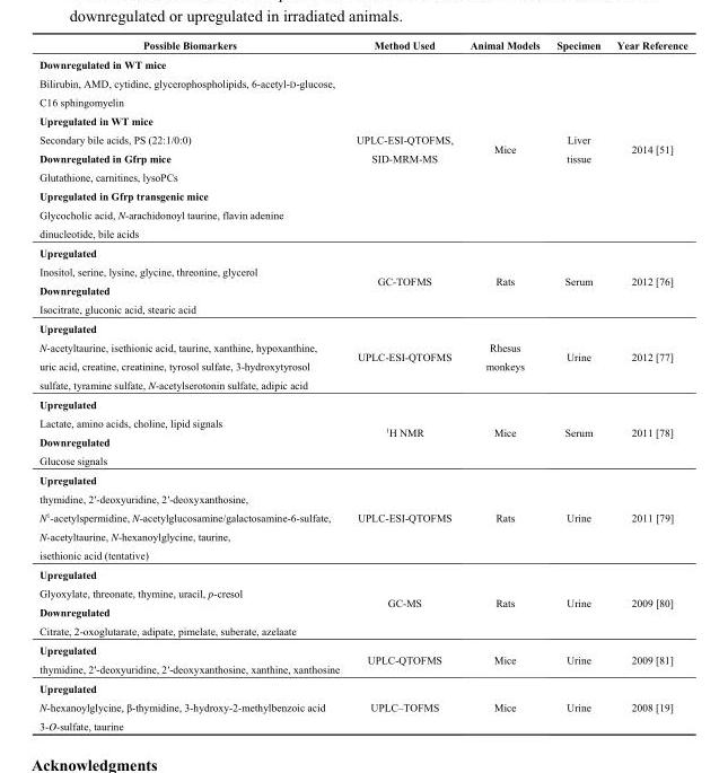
<table><thead><tr><td>Possible Biomarkers</td><td>Method Used</td><td>Animal Models</td><td>Specimen</td><td>Year Reference</td></tr></thead><tbody><tr><td>Downregulated in WT mice</td><td rowspan="8">UPLC-ESI-QTOFMS, SID-MRM-MS</td><td rowspan="8">Mice</td><td rowspan="8">Liver tissue</td><td rowspan="8">2014 [51]</td></tr><tr><td>Bilirubin, AMD, cytidine, glycerophospholipids, 6-acetyl-D-glucose, C16 sphingomyelin</td></tr><tr><td>Upregulated in WT mice</td></tr><tr><td>Secondary bile acids, PS (22:1/0:0)</td></tr><tr><td>Downregulated in Gfrp mice</td></tr><tr><td>Glutathione, carnitines, lysoPCs</td></tr><tr><td>Upregulated in Gfrp transgenic mice</td></tr><tr><td>Glycocholic acid, N-arachidonoyl taurine, flavin adenine dinucleotide, bile acids</td></tr><tr><td>Upregulated</td><td rowspan="4">GC-TOFMS</td><td rowspan="4">Rats</td><td rowspan="4">Serum</td><td rowspan="4">2012 [76]</td></tr><tr><td>Inositol, serine, lysine, glycine, threonine, glycerol</td></tr><tr><td>Downregulated</td></tr><tr><td>Isocitrate, gluconic acid, stearic acid</td></tr><tr><td>Upregulated</td><td rowspan="2">UPLC-ESI-QTOFMS</td><td rowspan="2">Rhesus monkeys</td><td rowspan="2">Urine</td><td rowspan="2">2012 [77]</td></tr><tr><td>N-acetyltaurine, isethionic acid, taurine, xanthine, hypoxanthine, uric acid, creatine, creatinine, tyrosol sulfate, 3-hydroxytyrosol sulfate, tyramine sulfate, N-acetylserotonin sulfate, adipic acid</td></tr><tr><td>Upregulated</td><td rowspan="4"><sup>1</sup>H NMR</td><td rowspan="4">Mice</td><td rowspan="4">Serum</td><td rowspan="4">2011 [78]</td></tr><tr><td>Lactate, amino acids, choline, lipid signals</td></tr><tr><td>Downregulated</td></tr><tr><td>Glucose signals</td></tr><tr><td>Upregulated</td><td rowspan="2">UPLC-ESI-QTOFMS</td><td rowspan="2">Rats</td><td rowspan="2">Urine</td><td rowspan="2">2011 [79]</td></tr><tr><td>thymidine, 2′-deoxyuridine, 2′-deoxyxanthosine, N<sup>1</sup>-acetylspermidine, N-acetylglucosamine/galactosamine-6-sulfate, N-acetyltaurine, N-hexanoylglycine, taurine, isethionic acid (tentative)</td></tr><tr><td>Upregulated</td><td rowspan="4">GC-MS</td><td rowspan="4">Rats</td><td rowspan="4">Urine</td><td rowspan="4">2009 [80]</td></tr><tr><td>Glyoxylate, threonate, thymine, uracil, p-cresol</td></tr><tr><td>Downregulated</td></tr><tr><td>Citrate, 2-oxoglutarate, adipate, pimelate, suberate, azelaate</td></tr><tr><td>Upregulated</td><td rowspan="2">UPLC-QTOFMS</td><td rowspan="2">Mice</td><td rowspan="2">Urine</td><td rowspan="2">2009 [81]</td></tr><tr><td>thymidine, 2′-deoxyuridine, 2′-deoxyxanthosine, xanthine, xanthosine</td></tr><tr><td>Upregulated</td><td rowspan="2">UPLC–TOFMS</td><td rowspan="2">Mice</td><td rowspan="2">Urine</td><td rowspan="2">2008 [19]</td></tr><tr><td>N-hexanoylglycine, β-thymidine, 3-hydroxy-2-methylbenzoic acid 3-O-sulfate, taurine</td></tr></tbody></table>